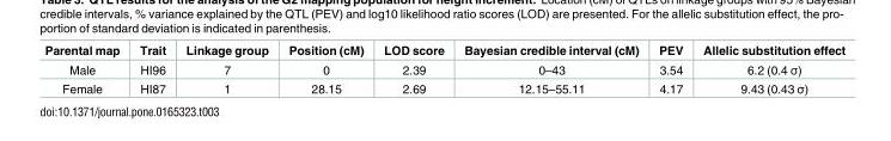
<table><thead><tr><td>Parental map</td><td>Trait</td><td>Linkage group</td><td>Position (cM)</td><td>LOD score</td><td>Bayesian credible interval (cM)</td><td>PEV</td><td>Allelic substitution effect</td></tr></thead><tbody><tr><td>Male</td><td>HI96</td><td>7</td><td>0</td><td>2.39</td><td>0–43</td><td>3.54</td><td>6.2 (0.4 σ)</td></tr><tr><td>Female</td><td>HI87</td><td>1</td><td>28.15</td><td>2.69</td><td>12.15–55.11</td><td>4.17</td><td>9.43 (0.43 σ)</td></tr></tbody></table>